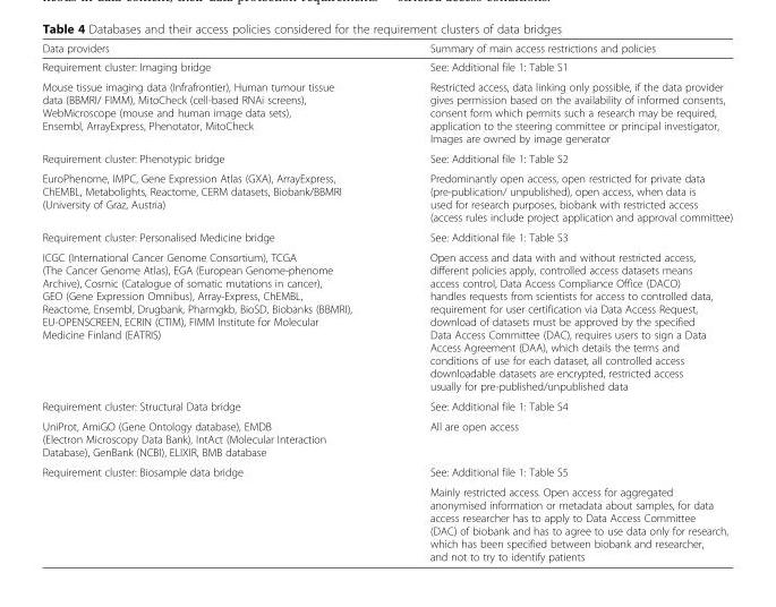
<table><thead><tr><td>Data providers</td><td>Summary of main access restrictions and policies</td></tr></thead><tbody><tr><td>Requirement cluster: Imaging bridge</td><td>See: Additional file 1: Table S1</td></tr><tr><td>Mouse tissue imaging data (Infrafrontier), Human tumour tissue data (BBMRI/ FIMM), MitoCheck (cell-based RNAi screens), WebMicroscope (mouse and human image data sets), Ensembl, ArrayExpress, Phenotator, MitoCheck</td><td>Restricted access, data linking only possible, if the data provider gives permission based on the availability of informed consents, consent form which permits such a research may be required, application to the steering committee or principal investigator, Images are owned by image generator</td></tr><tr><td>Requirement cluster: Phenotypic bridge</td><td>See: Additional file 1: Table S2</td></tr><tr><td>EuroPhenome, IMPC, Gene Expression Atlas (GXA), ArrayExpress, ChEMBL, Metabolights, Reactome, CERM datasets, Biobank/BBMRI (University of Graz, Austria)</td><td>Predominantly open access, open restricted for private data (pre-publication/ unpublished), open access, when data is used for research purposes, biobank with restricted access (access rules include project application and approval committee)</td></tr><tr><td>Requirement cluster: Personalised Medicine bridge</td><td>See: Additional file 1: Table S3</td></tr><tr><td>ICGC (International Cancer Genome Consortium), TCGA (The Cancer Genome Atlas), EGA (European Genome-phenome Archive), Cosmic (Catalogue of somatic mutations in cancer), GEO (Gene Expression Omnibus), Array-Express, ChEMBL, Reactome, Ensembl, Drugbank, Pharmgkb, BioSD, Biobanks (BBMRI), EU-OPENSCREEN, ECRIN (CTIM), FIMM Institute for Molecular Medicine Finland (EATRIS)</td><td>Open access and data with and without restricted access, different policies apply, controlled access datasets means access control, Data Access Compliance Office (DACO) handles requests from scientists for access to controlled data, requirement for user certification via Data Access Request, download of datasets must be approved by the specified Data Access Committee (DAC), requires users to sign a Data Access Agreement (DAA), which details the terms and conditions of use for each dataset, all controlled access downloadable datasets are encrypted, restricted access usually for pre-published/unpublished data</td></tr><tr><td>Requirement cluster: Structural Data bridge</td><td>See: Additional file 1: Table S4</td></tr><tr><td>UniProt, AmiGO (Gene Ontology database), EMDB (Electron Microscopy Data Bank), IntAct (Molecular Interaction Database), GenBank (NCBI), ELIXIR, BMB database</td><td>All are open access</td></tr><tr><td rowspan="2">Requirement cluster: Biosample data bridge</td><td>See: Additional file 1: Table S5</td></tr><tr><td>Mainly restricted access. Open access for aggregated anonymised information or metadata about samples, for data access researcher has to apply to Data Access Committee (DAC) of biobank and has to agree to use data only for research, which has been specified between biobank and researcher, and not to try to identify patients</td></tr></tbody></table>